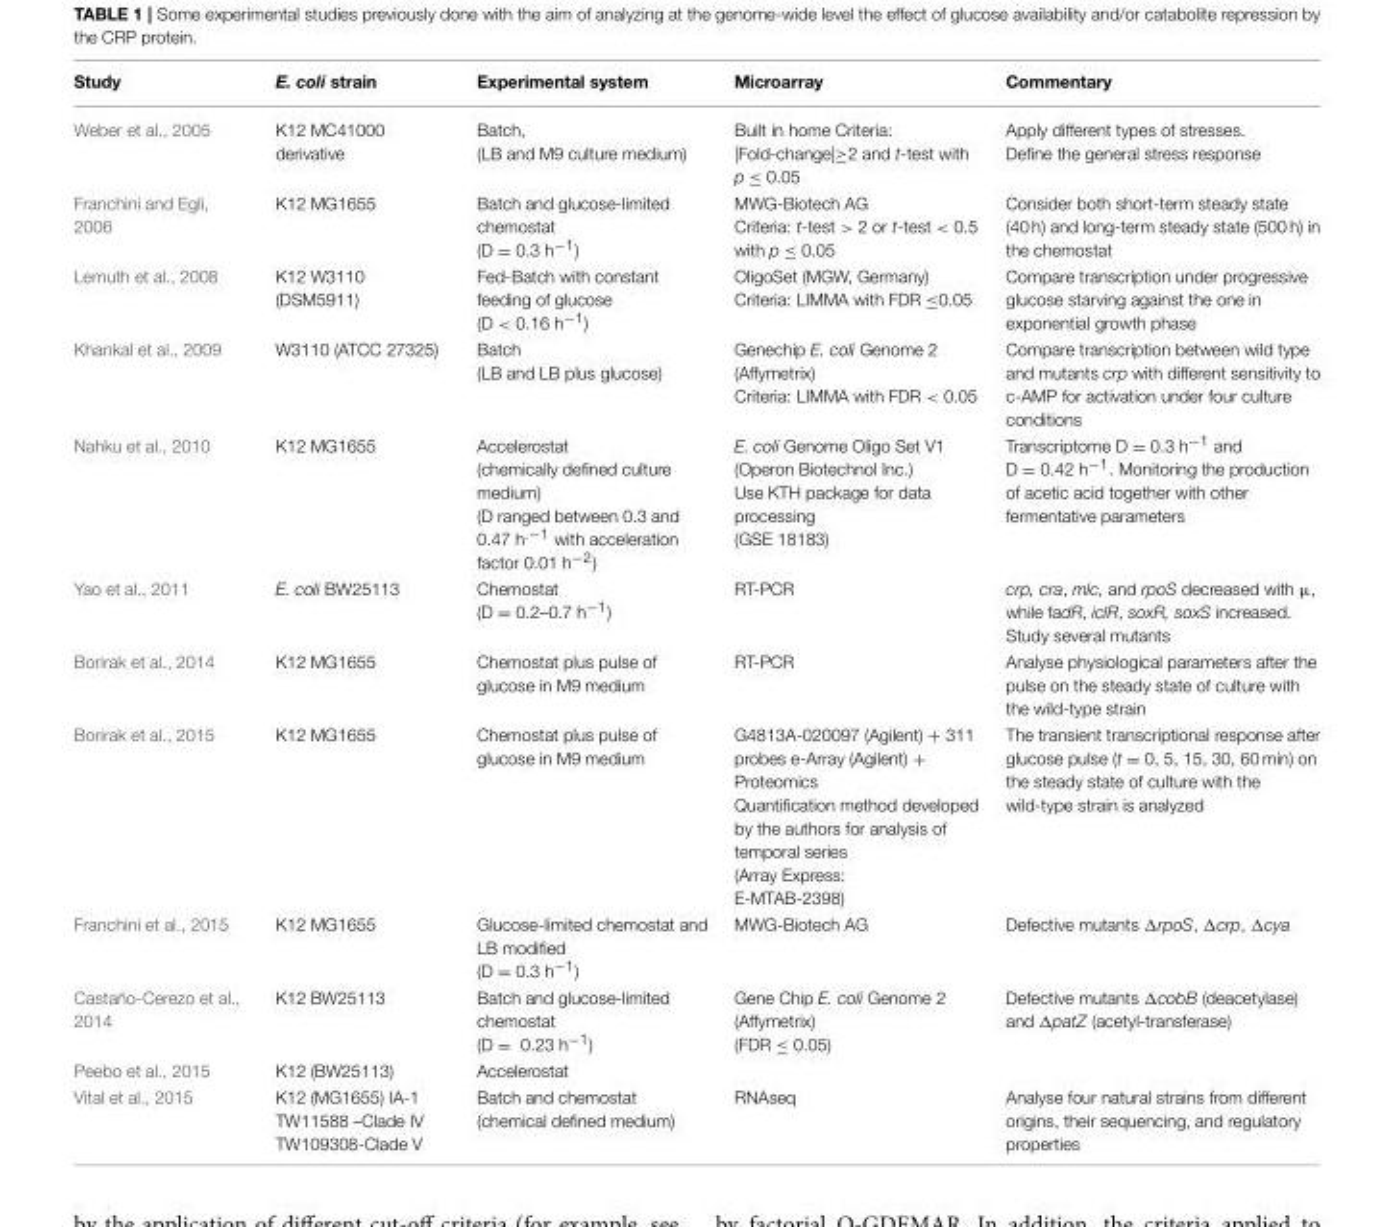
<table><thead><tr><td>Study</td><td>E. coli strain</td><td>Experimental system</td><td>Microarray</td><td>Commentary</td></tr></thead><tbody><tr><td>Weber et al., 2005</td><td>K12 MC41000 derivative</td><td>Batch, (LB and M9 culture medium)</td><td>Built in home Criteria: |Fold-change|≥2 and t-test with p ≤ 0.05</td><td>Apply different types of stresses. Define the general stress response</td></tr><tr><td>Franchini and Egli, 2006</td><td>K12 MG1655</td><td>Batch and glucose-limited chemostat (D = 0.3 h<sup>−1</sup>)</td><td>MWG-Biotech AG Criteria: t-test &gt; 2 or t-test &lt; 0.5 with p ≤ 0.05</td><td>Consider both short-term steady state (40 h) and long-term steady state (500 h) in the chemostat</td></tr><tr><td>Lemuth et al., 2008</td><td>K12 W3110 (DSM5911)</td><td>Fed-Batch with constant feeding of glucose (D &lt; 0.16 h<sup>−1</sup>)</td><td>OligoSet (MGW, Germany) Criteria: LIMMA with FDR ≤0.05</td><td>Compare transcription under progressive glucose starving against the one in exponential growth phase</td></tr><tr><td>Khankal et al., 2009</td><td>W3110 (ATCC 27325)</td><td>Batch (LB and LB plus glucose)</td><td>Genechip E. coli Genome 2 (Affymetrix) Criteria: LIMMA with FDR &lt; 0.05</td><td>Compare transcription between wild type and mutants crp with different sensitivity to c-AMP for activation under four culture conditions</td></tr><tr><td>Nahku et al., 2010</td><td>K12 MG1655</td><td>Accelerostat (chemically defined culture medium) (D ranged between 0.3 and 0.47 h<sup>.−1</sup> with acceleration factor 0.01 h<sup>−2</sup>)</td><td>E. coli Genome Oligo Set V1 (Operon Biotechnol Inc.) Use KTH package for data processing (GSE 18183)</td><td>Transcriptome D = 0.3 h<sup>−1</sup> and D = 0.42 h<sup>−1</sup>. Monitoring the production of acetic acid together with other fermentative parameters</td></tr><tr><td>Yao et al., 2011</td><td>E. coli BW25113</td><td>Chemostat (D = 0.2–0.7 h<sup>−1</sup>)</td><td>RT-PCR</td><td>crp, cra, mlc, and rpoS decreased with µ, while fadR, iclR, soxR, soxS increased. Study several mutants</td></tr><tr><td>Borirak et al., 2014</td><td>K12 MG1655</td><td>Chemostat plus pulse of glucose in M9 medium</td><td>RT-PCR</td><td>Analyse physiological parameters after the pulse on the steady state of culture with the wild-type strain</td></tr><tr><td>Borirak et al., 2015</td><td>K12 MG1655</td><td>Chemostat plus pulse of glucose in M9 medium</td><td>G4813A-020097 (Agilent) + 311 probes e-Array (Agilent) + Proteomics Quantification method developed by the authors for analysis of temporal series (Array Express: E-MTAB-2398)</td><td>The transient transcriptional response after glucose pulse (t = 0, 5, 15, 30, 60 min) on the steady state of culture with the wild-type strain is analyzed</td></tr><tr><td>Franchini et al., 2015</td><td>K12 MG1655</td><td>Glucose-limited chemostat and LB modified (D = 0.3 h<sup>−1</sup>)</td><td>MWG-Biotech AG</td><td>Defective mutants ΔrpoS, Δcrp, Δcya</td></tr><tr><td>Castaño-Cerezo et al., 2014</td><td>K12 BW25113</td><td>Batch and glucose-limited chemostat (D = 0.23 h<sup>−1</sup>)</td><td>Gene Chip E. coli Genome 2 (Affymetrix) (FDR ≤ 0.05)</td><td>Defective mutants ΔcobB (deacetylase) and ΔpatZ (acetyl-transferase)</td></tr><tr><td>Peebo et al., 2015</td><td>K12 (BW25113)</td><td>Accelerostat</td><td></td><td></td></tr><tr><td>Vital et al., 2015</td><td>K12 (MG1655) IA-1 TW11588 –Clade IV TW109308-Clade V</td><td>Batch and chemostat (chemical defined medium)</td><td>RNAseq</td><td>Analyse four natural strains from different origins, their sequencing, and regulatory properties</td></tr></tbody></table>